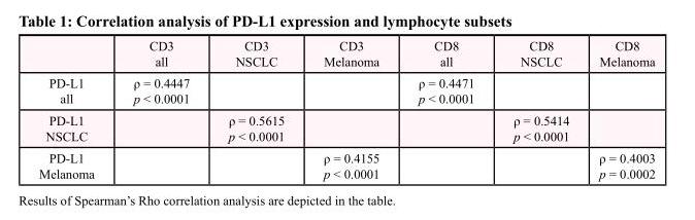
<table><thead><tr><td></td><td>CD3 all</td><td>CD3 NSCLC</td><td>CD3 Melanoma</td><td>CD8 all</td><td>CD8 NSCLC</td><td>CD8 Melanoma</td></tr></thead><tbody><tr><td>PD-L1 all</td><td>ρ = 0.4447 p &lt; 0.0001</td><td></td><td></td><td>ρ = 0.4471 p &lt; 0.0001</td><td></td><td></td></tr><tr><td>PD-L1 NSCLC</td><td></td><td>ρ = 0.5615 p &lt; 0.0001</td><td></td><td></td><td>ρ = 0.5414 p &lt; 0.0001</td><td></td></tr><tr><td>PD-L1 Melanoma</td><td></td><td></td><td>ρ = 0.4155 p &lt; 0.0001</td><td></td><td></td><td>ρ = 0.4003 p = 0.0002</td></tr></tbody></table>